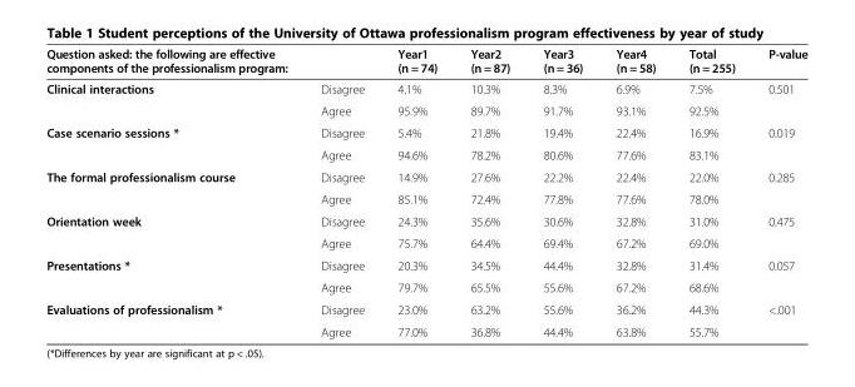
<table><thead><tr><td>Question asked: the following are effective components of the professionalism program:</td><td></td><td>Year1 (n = 74)</td><td>Year2 (n = 87)</td><td>Year3 (n = 36)</td><td>Year4 (n = 58)</td><td>Total (n = 255)</td><td>P-value</td></tr></thead><tbody><tr><td rowspan="2">Clinical interactions</td><td>Disagree</td><td>4.1%</td><td>10.3%</td><td>8.3%</td><td>6.9%</td><td>7.5%</td><td>0.501</td></tr><tr><td>Agree</td><td>95.9%</td><td>89.7%</td><td>91.7%</td><td>93.1%</td><td>92.5%</td><td></td></tr><tr><td rowspan="2">Case scenario sessions *</td><td>Disagree</td><td>5.4%</td><td>21.8%</td><td>19.4%</td><td>22.4%</td><td>16.9%</td><td>0.019</td></tr><tr><td>Agree</td><td>94.6%</td><td>78.2%</td><td>80.6%</td><td>77.6%</td><td>83.1%</td><td></td></tr><tr><td rowspan="2">The formal professionalism course</td><td>Disagree</td><td>14.9%</td><td>27.6%</td><td>22.2%</td><td>22.4%</td><td>22.0%</td><td>0.285</td></tr><tr><td>Agree</td><td>85.1%</td><td>72.4%</td><td>77.8%</td><td>77.6%</td><td>78.0%</td><td></td></tr><tr><td rowspan="2">Orientation week</td><td>Disagree</td><td>24.3%</td><td>35.6%</td><td>30.6%</td><td>32.8%</td><td>31.0%</td><td>0.475</td></tr><tr><td>Agree</td><td>75.7%</td><td>64.4%</td><td>69.4%</td><td>67.2%</td><td>69.0%</td><td></td></tr><tr><td rowspan="2">Presentations *</td><td>Disagree</td><td>20.3%</td><td>34.5%</td><td>44.4%</td><td>32.8%</td><td>31.4%</td><td>0.057</td></tr><tr><td>Agree</td><td>79.7%</td><td>65.5%</td><td>55.6%</td><td>67.2%</td><td>68.6%</td><td></td></tr><tr><td rowspan="2">Evaluations of professionalism *</td><td>Disagree</td><td>23.0%</td><td>63.2%</td><td>55.6%</td><td>36.2%</td><td>44.3%</td><td>&lt;.001</td></tr><tr><td>Agree</td><td>77.0%</td><td>36.8%</td><td>44.4%</td><td>63.8%</td><td>55.7%</td><td></td></tr></tbody></table>